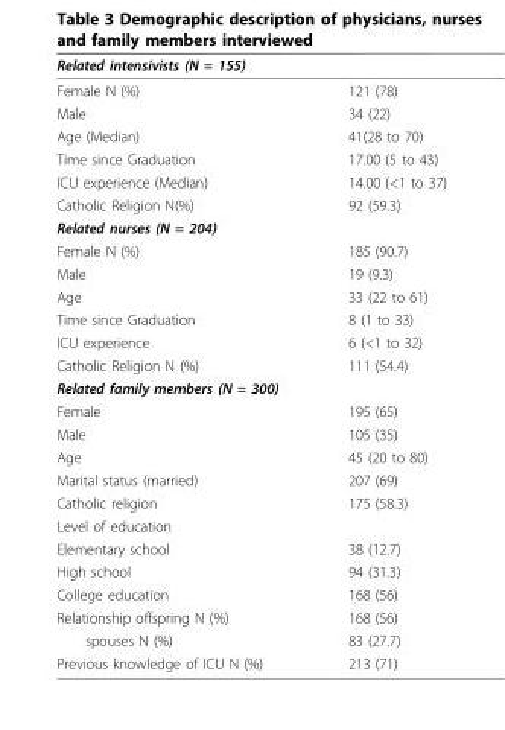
<table><thead><tr><td>Related intensivists (N = 155)</td><td></td></tr></thead><tbody><tr><td>Female N (%)</td><td>121 (78)</td></tr><tr><td>Male</td><td>34 (22)</td></tr><tr><td>Age (Median)</td><td>41(28 to 70)</td></tr><tr><td>Time since Graduation</td><td>17.00 (5 to 43)</td></tr><tr><td>ICU experience (Median)</td><td>14.00 (&lt;1 to 37)</td></tr><tr><td>Catholic Religion N(%)</td><td>92 (59.3)</td></tr><tr><td colspan="2">Related nurses (N = 204)</td></tr><tr><td>Female N (%)</td><td>185 (90.7)</td></tr><tr><td>Male</td><td>19 (9.3)</td></tr><tr><td>Age</td><td>33 (22 to 61)</td></tr><tr><td>Time since Graduation</td><td>8 (1 to 33)</td></tr><tr><td>ICU experience</td><td>6 (&lt;1 to 32)</td></tr><tr><td>Catholic Religion N (%)</td><td>111 (54.4)</td></tr><tr><td colspan="2">Related family members (N = 300)</td></tr><tr><td>Female</td><td>195 (65)</td></tr><tr><td>Male</td><td>105 (35)</td></tr><tr><td>Age</td><td>45 (20 to 80)</td></tr><tr><td>Marital status (married)</td><td>207 (69)</td></tr><tr><td>Catholic religion</td><td>175 (58.3)</td></tr><tr><td colspan="2">Level of education</td></tr><tr><td>Elementary school</td><td>38 (12.7)</td></tr><tr><td>High school</td><td>94 (31.3)</td></tr><tr><td>College education</td><td>168 (56)</td></tr><tr><td>Relationship offspring N (%)</td><td>168 (56)</td></tr><tr><td>spouses N (%)</td><td>83 (27.7)</td></tr><tr><td>Previous knowledge of ICU N (%)</td><td>213 (71)</td></tr></tbody></table>